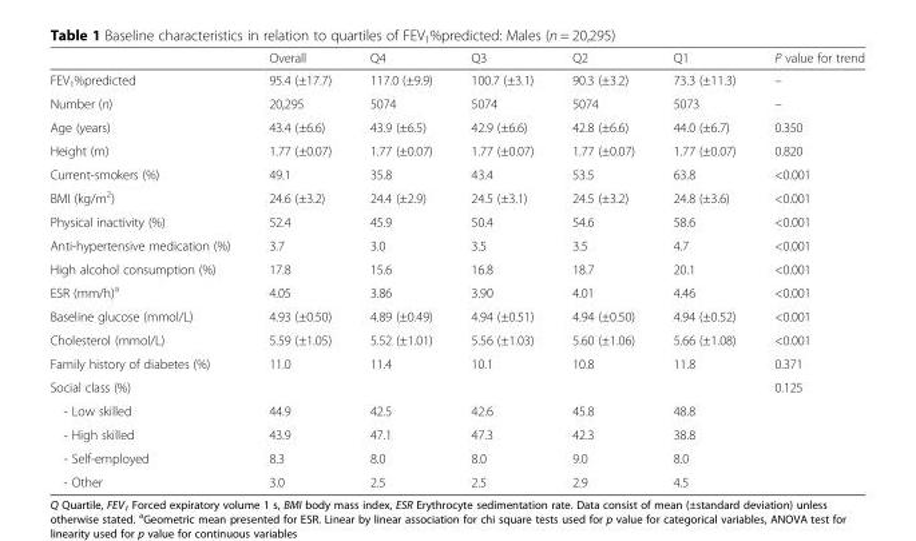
<table><thead><tr><td></td><td>Overall</td><td>Q4</td><td>Q3</td><td>Q2</td><td>Q1</td><td>P value for trend</td></tr></thead><tbody><tr><td>FEV<sub>1</sub>%predicted</td><td>95.4 (±17.7)</td><td>117.0 (±9.9)</td><td>100.7 (±3.1)</td><td>90.3 (±3.2)</td><td>73.3 (±11.3)</td><td>–</td></tr><tr><td>Number (n)</td><td>20,295</td><td>5074</td><td>5074</td><td>5074</td><td>5073</td><td>–</td></tr><tr><td>Age (years)</td><td>43.4 (±6.6)</td><td>43.9 (±6.5)</td><td>42.9 (±6.6)</td><td>42.8 (±6.6)</td><td>44.0 (±6.7)</td><td>0.350</td></tr><tr><td>Height (m)</td><td>1.77 (±0.07)</td><td>1.77 (±0.07)</td><td>1.77 (±0.07)</td><td>1.77 (±0.07)</td><td>1.77 (±0.07)</td><td>0.820</td></tr><tr><td>Current-smokers (%)</td><td>49.1</td><td>35.8</td><td>43.4</td><td>53.5</td><td>63.8</td><td>&lt;0.001</td></tr><tr><td>BMI (kg/m<sup>2</sup>)</td><td>24.6 (±3.2)</td><td>24.4 (±2.9)</td><td>24.5 (±3.1)</td><td>24.5 (±3.2)</td><td>24.8 (±3.6)</td><td>&lt;0.001</td></tr><tr><td>Physical inactivity (%)</td><td>52.4</td><td>45.9</td><td>50.4</td><td>54.6</td><td>58.6</td><td>&lt;0.001</td></tr><tr><td>Anti-hypertensive medication (%)</td><td>3.7</td><td>3.0</td><td>3.5</td><td>3.5</td><td>4.7</td><td>&lt;0.001</td></tr><tr><td>High alcohol consumption (%)</td><td>17.8</td><td>15.6</td><td>16.8</td><td>18.7</td><td>20.1</td><td>&lt;0.001</td></tr><tr><td>ESR (mm/h)<sup>a</sup></td><td>4.05</td><td>3.86</td><td>3.90</td><td>4.01</td><td>4.46</td><td>&lt;0.001</td></tr><tr><td>Baseline glucose (mmol/L)</td><td>4.93 (±0.50)</td><td>4.89 (±0.49)</td><td>4.94 (±0.51)</td><td>4.94 (±0.50)</td><td>4.94 (±0.52)</td><td>&lt;0.001</td></tr><tr><td>Cholesterol (mmol/L)</td><td>5.59 (±1.05)</td><td>5.52 (±1.01)</td><td>5.56 (±1.03)</td><td>5.60 (±1.06)</td><td>5.66 (±1.08)</td><td>&lt;0.001</td></tr><tr><td>Family history of diabetes (%)</td><td>11.0</td><td>11.4</td><td>10.1</td><td>10.8</td><td>11.8</td><td>0.371</td></tr><tr><td colspan="6">Social class (%)</td><td rowspan="5">0.125</td></tr><tr><td>- Low skilled</td><td>44.9</td><td>42.5</td><td>42.6</td><td>45.8</td><td>48.8</td></tr><tr><td>- High skilled</td><td>43.9</td><td>47.1</td><td>47.3</td><td>42.3</td><td>38.8</td></tr><tr><td>- Self-employed</td><td>8.3</td><td>8.0</td><td>8.0</td><td>9.0</td><td>8.0</td></tr><tr><td>- Other</td><td>3.0</td><td>2.5</td><td>2.5</td><td>2.9</td><td>4.5</td></tr></tbody></table>